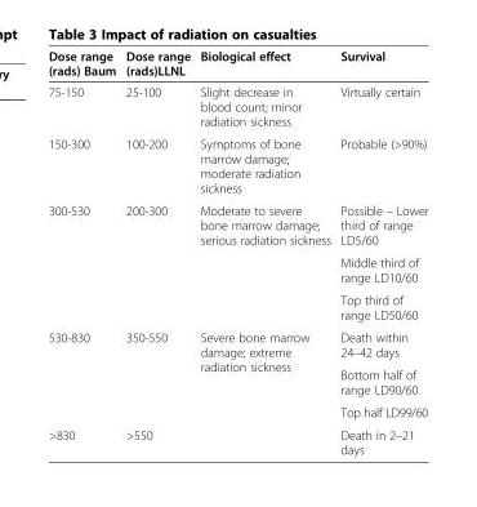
<table><thead><tr><td>Dose range (rads) Baum</td><td>Dose range (rads)LLNL</td><td>Biological effect</td><td>Survival</td></tr></thead><tbody><tr><td>75-150</td><td>25-100</td><td>Slight decrease in blood count; minor radiation sickness</td><td>Virtually certain</td></tr><tr><td>150-300</td><td>100-200</td><td>Symptoms of bone marrow damage; moderate radiation sickness</td><td>Probable (&gt;90%)</td></tr><tr><td rowspan="3">300-530</td><td rowspan="3">200-300</td><td rowspan="3">Moderate to severe bone marrow damage; serious radiation sickness</td><td>Possible – Lower third of range LD5/60</td></tr><tr><td>Middle third of range LD10/60</td></tr><tr><td>Top third of range LD50/60</td></tr><tr><td rowspan="3">530-830</td><td rowspan="3">350-550</td><td rowspan="3">Severe bone marrow damage; extreme radiation sickness</td><td>Death within 24–42 days</td></tr><tr><td>Bottom half of range LD90/60</td></tr><tr><td>Top half LD99/60</td></tr><tr><td>&gt;830</td><td>&gt;550</td><td></td><td>Death in 2–21 days</td></tr></tbody></table>